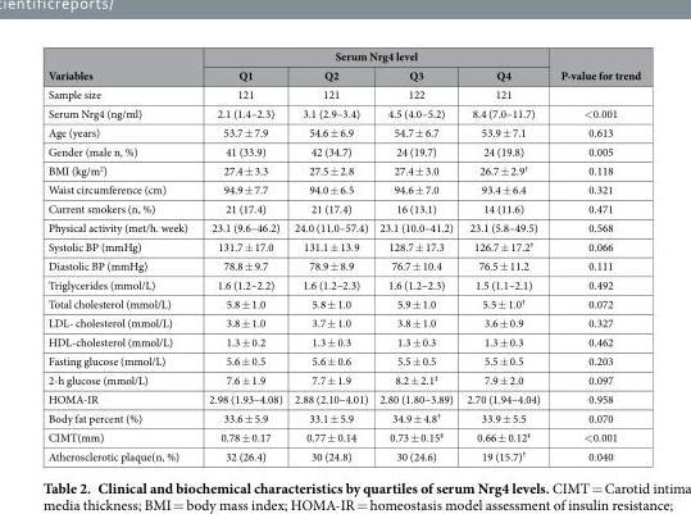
<table><thead><tr><td rowspan="2">Variables</td><td colspan="4">Serum Nrg4 level</td><td rowspan="2">P-value for trend</td></tr><tr><td>Q1</td><td>Q2</td><td>Q3</td><td>Q4</td></tr></thead><tbody><tr><td>Sample size</td><td>121</td><td>121</td><td>122</td><td>121</td><td></td></tr><tr><td>Serum Nrg4 (ng/ml)</td><td>2.1 (1.4–2.3)</td><td>3.1 (2.9–3.4)</td><td>4.5 (4.0–5.2)</td><td>8.4 (7.0–11.7)</td><td>&lt; 0.001</td></tr><tr><td>Age (years)</td><td>53.7 ± 7.9</td><td>54.6 ± 6.9</td><td>54.7 ± 6.7</td><td>53.9 ± 7.1</td><td>0.613</td></tr><tr><td>Gender (male n, %)</td><td>41 (33.9)</td><td>42 (34.7)</td><td>24 (19.7)</td><td>24 (19.8)</td><td>0.005</td></tr><tr><td>BMI (kg/m<sup>2</sup>)</td><td>27.4 ± 3.3</td><td>27.5 ± 2.8</td><td>27.4 ± 3.0</td><td>26.7 ± 2.9<sup>†</sup></td><td>0.118</td></tr><tr><td>Waist circumference (cm)</td><td>94.9 ± 7.7</td><td>94.0 ± 6.5</td><td>94.6 ± 7.0</td><td>93.4 ± 6.4</td><td>0.321</td></tr><tr><td>Current smokers (n, %)</td><td>21 (17.4)</td><td>21 (17.4)</td><td>16 (13.1)</td><td>14 (11.6)</td><td>0.471</td></tr><tr><td>Physical activity (met/h. week)</td><td>23.1 (9.6–46.2)</td><td>24.0 (11.0–57.4)</td><td>23.1 (10.0–41.2)</td><td>23.1 (5.8–49.5)</td><td>0.568</td></tr><tr><td>Systolic BP (mmHg)</td><td>131.7 ± 17.0</td><td>131.1 ± 13.9</td><td>128.7 ± 17.3</td><td>126.7 ± 17.2<sup>†</sup></td><td>0.066</td></tr><tr><td>Diastolic BP (mmHg)</td><td>78.8 ± 9.7</td><td>78.9 ± 8.9</td><td>76.7 ± 10.4</td><td>76.5 ± 11.2</td><td>0.111</td></tr><tr><td>Triglycerides (mmol/L)</td><td>1.6 (1.2–2.2)</td><td>1.6 (1.2–2.3)</td><td>1.6 (1.2–2.3)</td><td>1.5 (1.1–2.1)</td><td>0.492</td></tr><tr><td>Total cholesterol (mmol/L)</td><td>5.8 ± 1.0</td><td>5.8 ± 1.0</td><td>5.9 ± 1.0</td><td>5.5 ± 1.0<sup>†</sup></td><td>0.072</td></tr><tr><td>LDL- cholesterol (mmol/L)</td><td>3.8 ± 1.0</td><td>3.7 ± 1.0</td><td>3.8 ± 1.0</td><td>3.6 ± 0.9</td><td>0.327</td></tr><tr><td>HDL-cholesterol (mmol/L)</td><td>1.3 ± 0.2</td><td>1.3 ± 0.3</td><td>1.3 ± 0.3</td><td>1.3 ± 0.3</td><td>0.462</td></tr><tr><td>Fasting glucose (mmol/L)</td><td>5.6 ± 0.5</td><td>5.6 ± 0.6</td><td>5.5 ± 0.5</td><td>5.5 ± 0.5</td><td>0.203</td></tr><tr><td>2-h glucose (mmol/L)</td><td>7.6 ± 1.9</td><td>7.7 ± 1.9</td><td>8.2 ± 2.1<sup>‡</sup></td><td>7.9 ± 2.0</td><td>0.097</td></tr><tr><td>HOMA-IR</td><td>2.98 (1.93–4.08)</td><td>2.88 (2.10–4.01)</td><td>2.80 (1.80–3.89)</td><td>2.70 (1.94–4.04)</td><td>0.958</td></tr><tr><td>Body fat percent (%)</td><td>33.6 ± 5.9</td><td>33.1 ± 5.9</td><td>34.9 ± 4.8<sup>†</sup></td><td>33.9 ± 5.5</td><td>0.070</td></tr><tr><td>CIMT(mm)</td><td>0.78 ± 0.17</td><td>0.77 ± 0.14</td><td>0.73 ± 0.15<sup>‡</sup></td><td>0.66 ± 0.12<sup>‡</sup></td><td>&lt; 0.001</td></tr><tr><td>Atherosclerotic plaque(n, %)</td><td>32 (26.4)</td><td>30 (24.8)</td><td>30 (24.6)</td><td>19 (15.7)<sup>†</sup></td><td>0.040</td></tr></tbody></table>